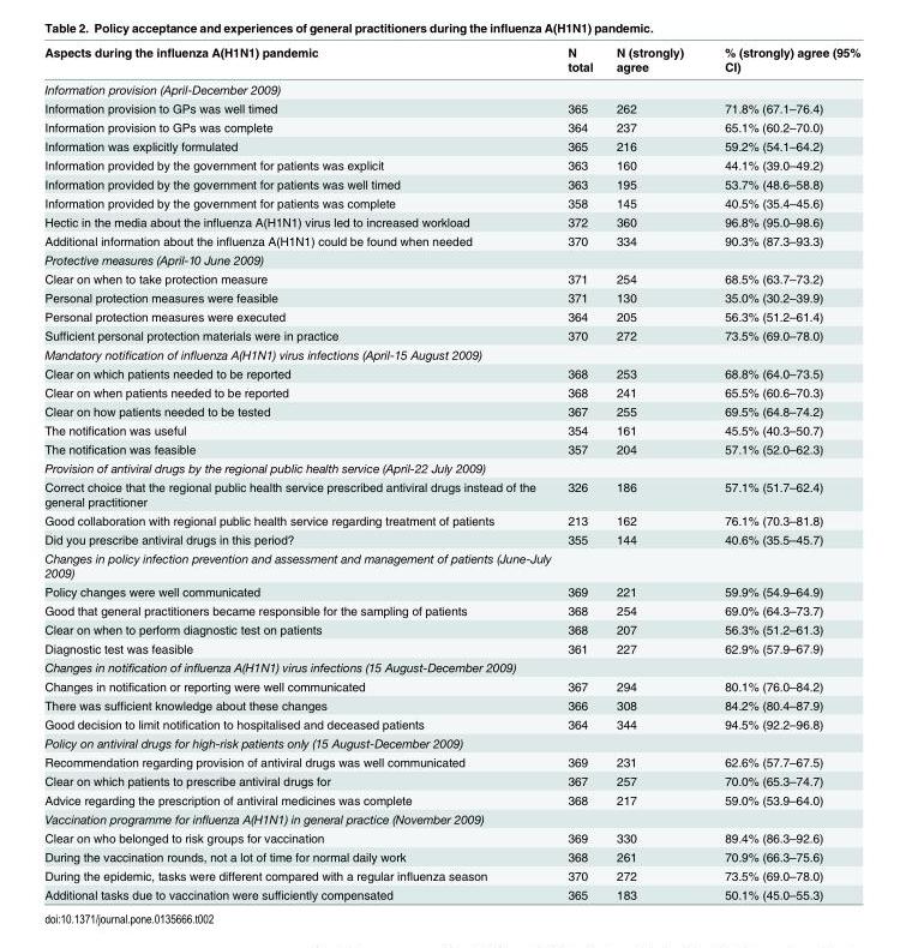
<table><thead><tr><td>Aspects during the influenza A(H1N1) pandemic</td><td>N total</td><td>N (strongly) agree</td><td>% (strongly) agree (95% CI)</td></tr></thead><tbody><tr><td colspan="4">Information provision (April-December 2009)</td></tr><tr><td>Information provision to GPs was well timed</td><td>365</td><td>262</td><td>71.8% (67.1–76.4)</td></tr><tr><td>Information provision to GPs was complete</td><td>364</td><td>237</td><td>65.1% (60.2–70.0)</td></tr><tr><td>Information was explicitly formulated</td><td>365</td><td>216</td><td>59.2% (54.1–64.2)</td></tr><tr><td>Information provided by the government for patients was explicit</td><td>363</td><td>160</td><td>44.1% (39.0–49.2)</td></tr><tr><td>Information provided by the government for patients was well timed</td><td>363</td><td>195</td><td>53.7% (48.6–58.8)</td></tr><tr><td>Information provided by the government for patients was complete</td><td>358</td><td>145</td><td>40.5% (35.4–45.6)</td></tr><tr><td>Hectic in the media about the influenza A(H1N1) virus led to increased workload</td><td>372</td><td>360</td><td>96.8% (95.0–98.6)</td></tr><tr><td>Additional information about the influenza A(H1N1) could be found when needed</td><td>370</td><td>334</td><td>90.3% (87.3–93.3)</td></tr><tr><td colspan="4">Protective measures (April-10 June 2009)</td></tr><tr><td>Clear on when to take protection measure</td><td>371</td><td>254</td><td>68.5% (63.7–73.2)</td></tr><tr><td>Personal protection measures were feasible</td><td>371</td><td>130</td><td>35.0% (30.2–39.9)</td></tr><tr><td>Personal protection measures were executed</td><td>364</td><td>205</td><td>56.3% (51.2–61.4)</td></tr><tr><td>Sufficient personal protection materials were in practice</td><td>370</td><td>272</td><td>73.5% (69.0–78.0)</td></tr><tr><td colspan="4">Mandatory notification of influenza A(H1N1) virus infections (April-15 August 2009)</td></tr><tr><td>Clear on which patients needed to be reported</td><td>368</td><td>253</td><td>68.8% (64.0–73.5)</td></tr><tr><td>Clear on when patients needed to be reported</td><td>368</td><td>241</td><td>65.5% (60.6–70.3)</td></tr><tr><td>Clear on how patients needed to be tested</td><td>367</td><td>255</td><td>69.5% (64.8–74.2)</td></tr><tr><td>The notification was useful</td><td>354</td><td>161</td><td>45.5% (40.3–50.7)</td></tr><tr><td>The notification was feasible</td><td>357</td><td>204</td><td>57.1% (52.0–62.3)</td></tr><tr><td colspan="4">Provision of antiviral drugs by the regional public health service (April-22 July 2009)</td></tr><tr><td>Correct choice that the regional public health service prescribed antiviral drugs instead of the general practitioner</td><td>326</td><td>186</td><td>57.1% (51.7–62.4)</td></tr><tr><td>Good collaboration with regional public health service regarding treatment of patients</td><td>213</td><td>162</td><td>76.1% (70.3–81.8)</td></tr><tr><td>Did you prescribe antiviral drugs in this period?</td><td>355</td><td>144</td><td>40.6% (35.5–45.7)</td></tr><tr><td colspan="4">Changes in policy infection prevention and assessment and management of patients (June-July 2009)</td></tr><tr><td>Policy changes were well communicated</td><td>369</td><td>221</td><td>59.9% (54.9–64.9)</td></tr><tr><td>Good that general practitioners became responsible for the sampling of patients</td><td>368</td><td>254</td><td>69.0% (64.3–73.7)</td></tr><tr><td>Clear on when to perform diagnostic test on patients</td><td>368</td><td>207</td><td>56.3% (51.2–61.3)</td></tr><tr><td>Diagnostic test was feasible</td><td>361</td><td>227</td><td>62.9% (57.9–67.9)</td></tr><tr><td colspan="4">Changes in notification of influenza A(H1N1) virus infections (15 August-December 2009)</td></tr><tr><td>Changes in notification or reporting were well communicated</td><td>367</td><td>294</td><td>80.1% (76.0–84.2)</td></tr><tr><td>There was sufficient knowledge about these changes</td><td>366</td><td>308</td><td>84.2% (80.4–87.9)</td></tr><tr><td>Good decision to limit notification to hospitalised and deceased patients</td><td>364</td><td>344</td><td>94.5% (92.2–96.8)</td></tr><tr><td colspan="4">Policy on antiviral drugs for high-risk patients only (15 August-December 2009)</td></tr><tr><td>Recommendation regarding provision of antiviral drugs was well communicated</td><td>369</td><td>231</td><td>62.6% (57.7–67.5)</td></tr><tr><td>Clear on which patients to prescribe antiviral drugs for</td><td>367</td><td>257</td><td>70.0% (65.3–74.7)</td></tr><tr><td>Advice regarding the prescription of antiviral medicines was complete</td><td>368</td><td>217</td><td>59.0% (53.9–64.0)</td></tr><tr><td colspan="4">Vaccination programme for influenza A(H1N1) in general practice (November 2009)</td></tr><tr><td>Clear on who belonged to risk groups for vaccination</td><td>369</td><td>330</td><td>89.4% (86.3–92.6)</td></tr><tr><td>During the vaccination rounds, not a lot of time for normal daily work</td><td>368</td><td>261</td><td>70.9% (66.3–75.6)</td></tr><tr><td>During the epidemic, tasks were different compared with a regular influenza season</td><td>370</td><td>272</td><td>73.5% (69.0–78.0)</td></tr><tr><td>Additional tasks due to vaccination were sufficiently compensated</td><td>365</td><td>183</td><td>50.1% (45.0–55.3)</td></tr></tbody></table>